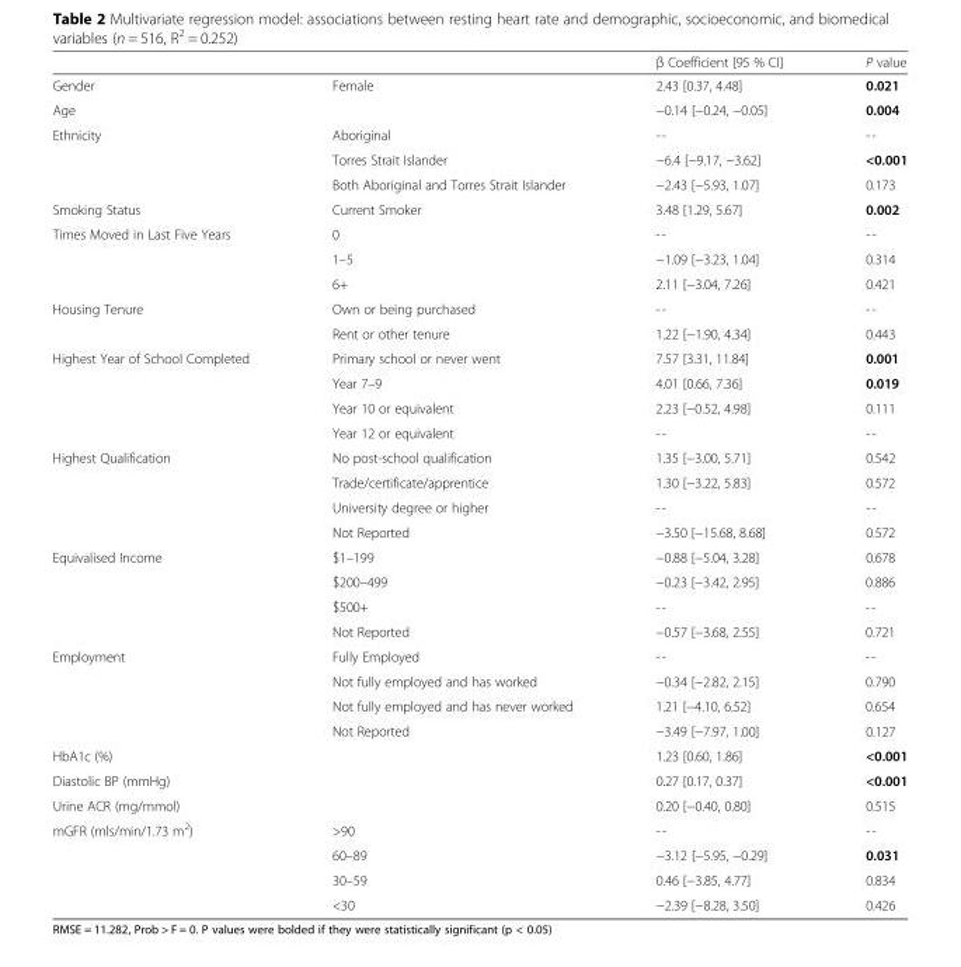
<table><thead><tr><td></td><td></td><td>β Coefficient [95 % CI]</td><td>P value</td></tr></thead><tbody><tr><td>Gender</td><td>Female</td><td>2.43 [0.37, 4.48]</td><td>0.021</td></tr><tr><td colspan="2">Age</td><td>−0.14 [−0.24, −0.05]</td><td>0.004</td></tr><tr><td rowspan="3">Ethnicity</td><td>Aboriginal</td><td>--</td><td>--</td></tr><tr><td>Torres Strait Islander</td><td>−6.4 [−9.17, −3.62]</td><td>&lt;0.001</td></tr><tr><td>Both Aboriginal and Torres Strait Islander</td><td>−2.43 [−5.93, 1.07]</td><td>0.173</td></tr><tr><td>Smoking Status</td><td>Current Smoker</td><td>3.48 [1.29, 5.67]</td><td>0.002</td></tr><tr><td rowspan="3">Times Moved in Last Five Years</td><td>0</td><td>--</td><td>--</td></tr><tr><td>1–5</td><td>−1.09 [−3.23, 1.04]</td><td>0.314</td></tr><tr><td>6+</td><td>2.11 [−3.04, 7.26]</td><td>0.421</td></tr><tr><td rowspan="2">Housing Tenure</td><td>Own or being purchased</td><td>--</td><td>--</td></tr><tr><td>Rent or other tenure</td><td>1.22 [−1.90, 4.34]</td><td>0.443</td></tr><tr><td rowspan="4">Highest Year of School Completed</td><td>Primary school or never went</td><td>7.57 [3.31, 11.84]</td><td>0.001</td></tr><tr><td>Year 7–9</td><td>4.01 [0.66, 7.36]</td><td>0.019</td></tr><tr><td>Year 10 or equivalent</td><td>2.23 [−0.52, 4.98]</td><td>0.111</td></tr><tr><td>Year 12 or equivalent</td><td>--</td><td>--</td></tr><tr><td rowspan="4">Highest Qualification</td><td>No post-school qualification</td><td>1.35 [−3.00, 5.71]</td><td>0.542</td></tr><tr><td>Trade/certificate/apprentice</td><td>1.30 [−3.22, 5.83]</td><td>0.572</td></tr><tr><td>University degree or higher</td><td>--</td><td>--</td></tr><tr><td>Not Reported</td><td>−3.50 [−15.68, 8.68]</td><td>0.572</td></tr><tr><td rowspan="4">Equivalised Income</td><td>$1–199</td><td>−0.88 [−5.04, 3.28]</td><td>0.678</td></tr><tr><td>$200–499</td><td>−0.23 [−3.42, 2.95]</td><td>0.886</td></tr><tr><td>$500+</td><td>--</td><td>--</td></tr><tr><td>Not Reported</td><td>−0.57 [−3.68, 2.55]</td><td>0.721</td></tr><tr><td rowspan="4">Employment</td><td>Fully Employed</td><td>--</td><td>--</td></tr><tr><td>Not fully employed and has worked</td><td>−0.34 [−2.82, 2.15]</td><td>0.790</td></tr><tr><td>Not fully employed and has never worked</td><td>1.21 [−4.10, 6.52]</td><td>0.654</td></tr><tr><td>Not Reported</td><td>−3.49 [−7.97, 1.00]</td><td>0.127</td></tr><tr><td colspan="2">HbA1c (%)</td><td>1.23 [0.60, 1.86]</td><td>&lt;0.001</td></tr><tr><td colspan="2">Diastolic BP (mmHg)</td><td>0.27 [0.17, 0.37]</td><td>&lt;0.001</td></tr><tr><td colspan="2">Urine ACR (mg/mmol)</td><td>0.20 [−0.40, 0.80]</td><td>0.515</td></tr><tr><td rowspan="4">mGFR (mls/min/1.73 m<sup>2</sup>)</td><td>&gt;90</td><td>--</td><td>--</td></tr><tr><td>60–89</td><td>−3.12 [−5.95, −0.29]</td><td>0.031</td></tr><tr><td>30–59</td><td>0.46 [−3.85, 4.77]</td><td>0.834</td></tr><tr><td>&lt;30</td><td>−2.39 [−8.28, 3.50]</td><td>0.426</td></tr></tbody></table>